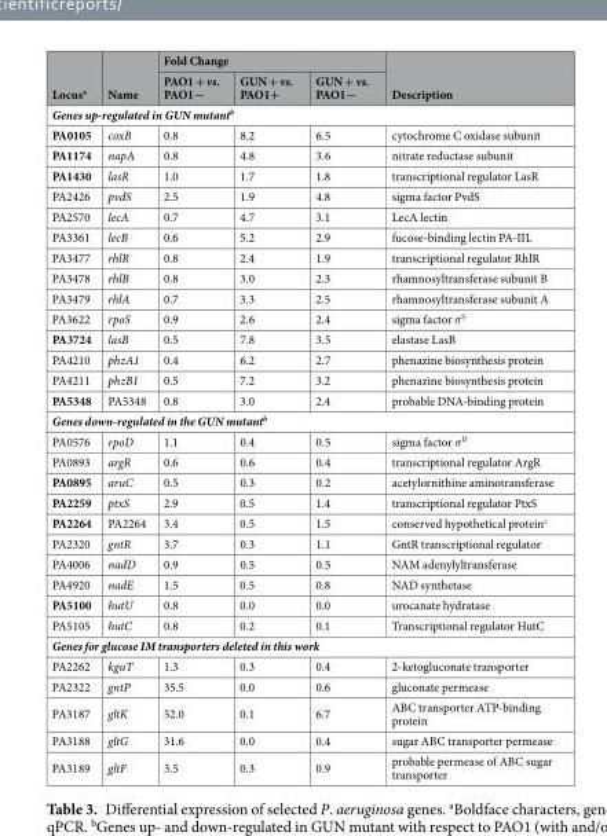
<table><thead><tr><td rowspan="2">Locus<sup>a</sup></td><td rowspan="2">Name</td><td colspan="3">Fold Change</td><td rowspan="2">Description</td></tr><tr><td>PAO1 + vs. PAO1−</td><td>GUN + vs. PAO1+</td><td>GUN + vs. PAO1−</td></tr></thead><tbody><tr><td colspan="6">Genes up-regulated in GUN mutant<sup>b</sup></td></tr><tr><td>PA0105</td><td>coxB</td><td>0.8</td><td>8.2</td><td>6.5</td><td>cytochrome C oxidase subunit</td></tr><tr><td>PA1174</td><td>napA</td><td>0.8</td><td>4.8</td><td>3.6</td><td>nitrate reductase subunit</td></tr><tr><td>PA1430</td><td>lasR</td><td>1.0</td><td>1.7</td><td>1.8</td><td>transcriptional regulator LasR</td></tr><tr><td>PA2426</td><td>pvdS</td><td>2.5</td><td>1.9</td><td>4.8</td><td>sigma factor PvdS</td></tr><tr><td>PA2570</td><td>lecA</td><td>0.7</td><td>4.7</td><td>3.1</td><td>LecA lectin</td></tr><tr><td>PA3361</td><td>lecB</td><td>0.6</td><td>5.2</td><td>2.9</td><td>fucose-binding lectin PA-IIL</td></tr><tr><td>PA3477</td><td>rhlR</td><td>0.8</td><td>2.4</td><td>1.9</td><td>transcriptional regulator RhlR</td></tr><tr><td>PA3478</td><td>rhlB</td><td>0.8</td><td>3.0</td><td>2.3</td><td>rhamnosyltransferase subunit B</td></tr><tr><td>PA3479</td><td>rhlA</td><td>0.7</td><td>3.3</td><td>2.5</td><td>rhamnosyltransferase subunit A</td></tr><tr><td>PA3622</td><td>rpoS</td><td>0.9</td><td>2.6</td><td>2.4</td><td>sigma factor σ<sup>S</sup></td></tr><tr><td>PA3724</td><td>lasB</td><td>0.5</td><td>7.8</td><td>3.5</td><td>elastase LasB</td></tr><tr><td>PA4210</td><td>phzA1</td><td>0.4</td><td>6.2</td><td>2.7</td><td>phenazine biosynthesis protein</td></tr><tr><td>PA4211</td><td>phzB1</td><td>0.5</td><td>7.2</td><td>3.2</td><td>phenazine biosynthesis protein</td></tr><tr><td>PA5348</td><td>PA5348</td><td>0.8</td><td>3.0</td><td>2.4</td><td>probable DNA-binding protein</td></tr><tr><td colspan="6">Genes down-regulated in the GUN mutant<sup>b</sup></td></tr><tr><td>PA0576</td><td>rpoD</td><td>1.1</td><td>0.4</td><td>0.5</td><td>sigma factor σ<sup>D</sup></td></tr><tr><td>PA0893</td><td>argR</td><td>0.6</td><td>0.6</td><td>0.4</td><td>transcriptional regulator ArgR</td></tr><tr><td>PA0895</td><td>aruC</td><td>0.5</td><td>0.3</td><td>0.2</td><td>acetylornithine aminotransferase</td></tr><tr><td>PA2259</td><td>ptxS</td><td>2.9</td><td>0.5</td><td>1.4</td><td>transcriptional regulator PtxS</td></tr><tr><td>PA2264</td><td>PA2264</td><td>3.4</td><td>0.5</td><td>1.5</td><td>conserved hypothetical protein<sup>c</sup></td></tr><tr><td>PA2320</td><td>gntR</td><td>3.7</td><td>0.3</td><td>1.1</td><td>GntR transcriptional regulator</td></tr><tr><td>PA4006</td><td>nadD</td><td>0.9</td><td>0.5</td><td>0.5</td><td>NAM adenylyltransferase</td></tr><tr><td>PA4920</td><td>nadE</td><td>1.5</td><td>0.5</td><td>0.8</td><td>NAD synthetase</td></tr><tr><td>PA5100</td><td>hutU</td><td>0.8</td><td>0.0</td><td>0.0</td><td>urocanate hydratase</td></tr><tr><td>PA5105</td><td>hutC</td><td>0.8</td><td>0.2</td><td>0.1</td><td>Transcriptional regulator HutC</td></tr><tr><td colspan="6">Genes for glucose IM transporters deleted in this work</td></tr><tr><td>PA2262</td><td>kguT</td><td>1.3</td><td>0.3</td><td>0.4</td><td>2-ketogluconate transporter</td></tr><tr><td>PA2322</td><td>gntP</td><td>35.5</td><td>0.0</td><td>0.6</td><td>gluconate permease</td></tr><tr><td>PA3187</td><td>gltK</td><td>52.0</td><td>0.1</td><td>6.7</td><td>ABC transporter ATP-binding protein</td></tr><tr><td>PA3188</td><td>gltG</td><td>31.6</td><td>0.0</td><td>0.4</td><td>sugar ABC transporter permease</td></tr><tr><td>PA3189</td><td>gltF</td><td>3.5</td><td>0.3</td><td>0.9</td><td>probable permease of ABC sugar transporter</td></tr></tbody></table>